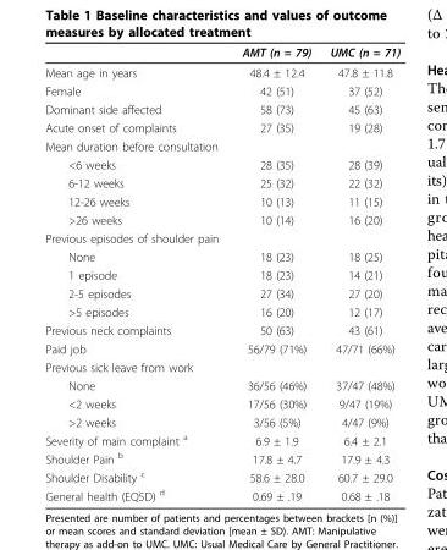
<table><thead><tr><td></td><td>AMT (n = 79)</td><td>UMC (n = 71)</td></tr></thead><tbody><tr><td>Mean age in years</td><td>48.4 ± 12.4</td><td>47.8 ± 11.8</td></tr><tr><td>Female</td><td>42 (51)</td><td>37 (52)</td></tr><tr><td>Dominant side affected</td><td>58 (73)</td><td>45 (63)</td></tr><tr><td>Acute onset of complaints</td><td>27 (35)</td><td>19 (28)</td></tr><tr><td colspan="3">Mean duration before consultation</td></tr><tr><td>&lt;6 weeks</td><td>28 (35)</td><td>28 (39)</td></tr><tr><td>6-12 weeks</td><td>25 (32)</td><td>22 (32)</td></tr><tr><td>12-26 weeks</td><td>10 (13)</td><td>11 (15)</td></tr><tr><td>&gt;26 weeks</td><td>10 (14)</td><td>16 (20)</td></tr><tr><td colspan="3">Previous episodes of shoulder pain</td></tr><tr><td>None</td><td>18 (23)</td><td>18 (25)</td></tr><tr><td>1 episode</td><td>18 (23)</td><td>14 (21)</td></tr><tr><td>2-5 episodes</td><td>27 (34)</td><td>27 (20)</td></tr><tr><td>&gt;5 episodes</td><td>16 (20)</td><td>12 (17)</td></tr><tr><td>Previous neck complaints</td><td>50 (63)</td><td>43 (61)</td></tr><tr><td>Paid job</td><td>56/79 (71%)</td><td>47/71 (66%)</td></tr><tr><td colspan="3">Previous sick leave from work</td></tr><tr><td>None</td><td>36/56 (46%)</td><td>37/47 (48%)</td></tr><tr><td>&lt;2 weeks</td><td>17/56 (30%)</td><td>9/47 (19%)</td></tr><tr><td>&gt;2 weeks</td><td>3/56 (5%)</td><td>4/47 (9%)</td></tr><tr><td>Severity of main complaint <sup>a</sup></td><td>6.9 ± 1.9</td><td>6.4 ± 2.1</td></tr><tr><td>Shoulder Pain <sup>b</sup></td><td>17.8 ± 4.7</td><td>17.9 ± 4.3</td></tr><tr><td>Shoulder Disability <sup>c</sup></td><td>58.6 ± 28.0</td><td>60.7 ± 29.0</td></tr><tr><td>General health (EQ5D) <sup>d</sup></td><td>0.69 ± .19</td><td>0.68 ± .18</td></tr></tbody></table>